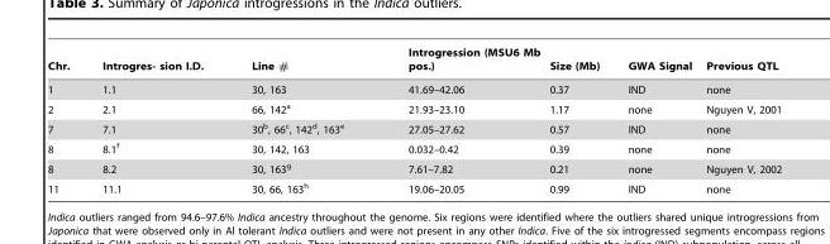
<table><thead><tr><td>Chr.</td><td>Introgres- sion I.D.</td><td>Line #</td><td>Introgression (MSU6 Mb pos.)</td><td>Size (Mb)</td><td>GWA Signal</td><td>Previous QTL</td></tr></thead><tbody><tr><td>1</td><td>1.1</td><td>30, 163</td><td>41.69–42.06</td><td>0.37</td><td>IND</td><td>none</td></tr><tr><td>2</td><td>2.1</td><td>66, 142<sup>a</sup></td><td>21.93–23.10</td><td>1.17</td><td>none</td><td>Nguyen V, 2001</td></tr><tr><td>7</td><td>7.1</td><td>30<sup>b</sup>, 66<sup>c</sup>, 142<sup>d</sup>, 163<sup>e</sup></td><td>27.05–27.62</td><td>0.57</td><td>IND</td><td>none</td></tr><tr><td>8</td><td>8.1<sup>f</sup></td><td>30, 142, 163</td><td>0.032–0.42</td><td>0.39</td><td>none</td><td>none</td></tr><tr><td>8</td><td>8.2</td><td>30, 163<sup>g</sup></td><td>7.61–7.82</td><td>0.21</td><td>none</td><td>Nguyen V, 2002</td></tr><tr><td>11</td><td>11.1</td><td>30, 66, 163<sup>h</sup></td><td>19.06–20.05</td><td>0.99</td><td>IND</td><td>none</td></tr></tbody></table>